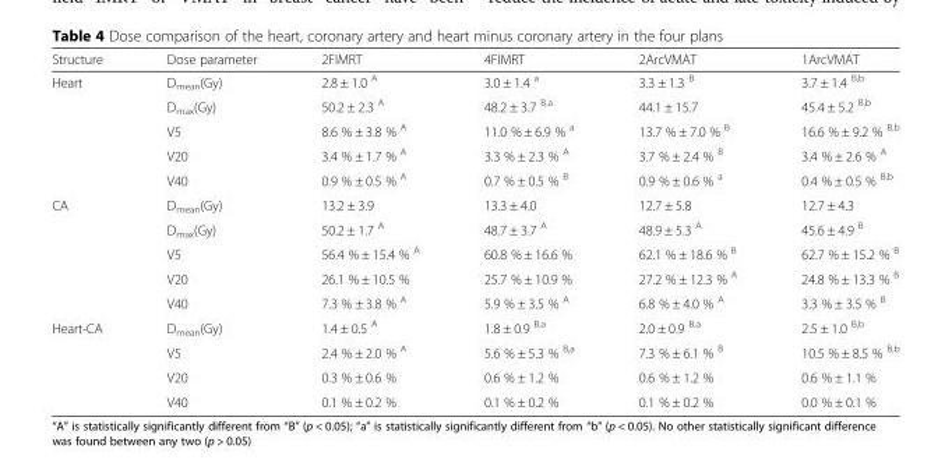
<table><thead><tr><td>Structure</td><td>Dose parameter</td><td>2FIMRT</td><td>4FIMRT</td><td>2ArcVMAT</td><td>1ArcVMAT</td></tr></thead><tbody><tr><td rowspan="5">Heart</td><td>D<sub>mean</sub>(Gy)</td><td>2.8 ± 1.0 <sup>A</sup></td><td>3.0 ± 1.4 <sup>a</sup></td><td>3.3 ± 1.3 <sup>B</sup></td><td>3.7 ± 1.4 <sup>B,b</sup></td></tr><tr><td>D<sub>max</sub>(Gy)</td><td>50.2 ± 2.3 <sup>A</sup></td><td>48.2 ± 3.7 <sup>B,a</sup></td><td>44.1 ± 15.7</td><td>45.4 ± 5.2 <sup>B,b</sup></td></tr><tr><td>V5</td><td>8.6 % ± 3.8 % <sup>A</sup></td><td>11.0 % ± 6.9 % <sup>a</sup></td><td>13.7 % ± 7.0 % <sup>B</sup></td><td>16.6 % ± 9.2 % <sup>B,b</sup></td></tr><tr><td>V20</td><td>3.4 % ± 1.7 % <sup>A</sup></td><td>3.3 % ± 2.3 % <sup>A</sup></td><td>3.7 % ± 2.4 % <sup>B</sup></td><td>3.4 % ± 2.6 % <sup>A</sup></td></tr><tr><td>V40</td><td>0.9 % ± 0.5 % <sup>A</sup></td><td>0.7 % ± 0.5 % <sup>B</sup></td><td>0.9 % ± 0.6 % <sup>a</sup></td><td>0.4 % ± 0.5 % <sup>B,b</sup></td></tr><tr><td rowspan="5">CA</td><td>D<sub>mean</sub>(Gy)</td><td>13.2 ± 3.9</td><td>13.3 ± 4.0</td><td>12.7 ± 5.8</td><td>12.7 ± 4.3</td></tr><tr><td>D<sub>max</sub>(Gy)</td><td>50.2 ± 1.7 <sup>A</sup></td><td>48.7 ± 3.7 <sup>A</sup></td><td>48.9 ± 5.3 <sup>A</sup></td><td>45.6 ± 4.9 <sup>B</sup></td></tr><tr><td>V5</td><td>56.4 % ± 15.4 % <sup>A</sup></td><td>60.8 % ± 16.6 %</td><td>62.1 % ± 18.6 % <sup>B</sup></td><td>62.7 % ± 15.2 % <sup>B</sup></td></tr><tr><td>V20</td><td>26.1 % ± 10.5 %</td><td>25.7 % ± 10.9 %</td><td>27.2 % ± 12.3 % <sup>A</sup></td><td>24.8 % ± 13.3 % <sup>B</sup></td></tr><tr><td>V40</td><td>7.3 % ± 3.8 % <sup>A</sup></td><td>5.9 % ± 3.5 % <sup>A</sup></td><td>6.8 % ± 4.0 % <sup>A</sup></td><td>3.3 % ± 3.5 % <sup>B</sup></td></tr><tr><td rowspan="4">Heart-CA</td><td>D<sub>mean</sub>(Gy)</td><td>1.4 ± 0.5 <sup>A</sup></td><td>1.8 ± 0.9 <sup>B,a</sup></td><td>2.0 ± 0.9 <sup>B,a</sup></td><td>2.5 ± 1.0 <sup>B,b</sup></td></tr><tr><td>V5</td><td>2.4 % ± 2.0 % <sup>A</sup></td><td>5.6 % ± 5.3 % <sup>B,a</sup></td><td>7.3 % ± 6.1 % <sup>B</sup></td><td>10.5 % ± 8.5 % <sup>B,b</sup></td></tr><tr><td>V20</td><td>0.3 % ± 0.6 %</td><td>0.6 % ± 1.2 %</td><td>0.6 % ± 1.2 %</td><td>0.6 % ± 1.1 %</td></tr><tr><td>V40</td><td>0.1 % ± 0.2 %</td><td>0.1 % ± 0.2 %</td><td>0.1 % ± 0.2 %</td><td>0.0 % ± 0.1 %</td></tr></tbody></table>